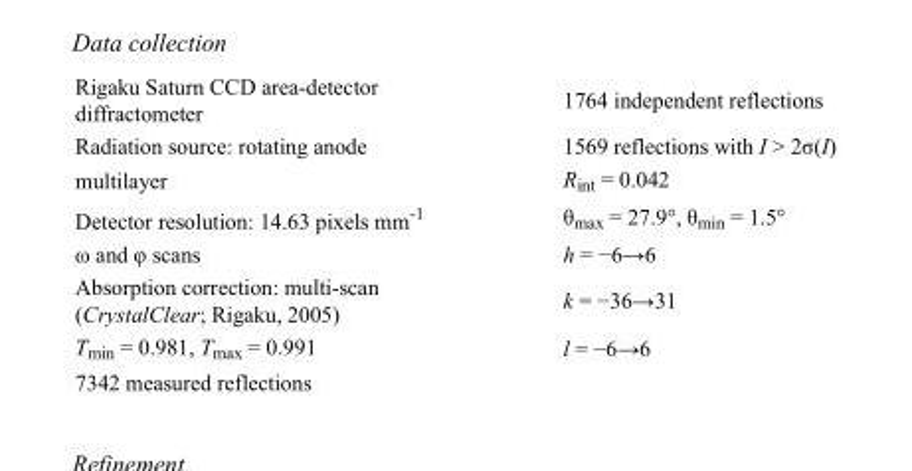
<table><tbody><tr><td>Rigaku Saturn CCD area-detector diffractometer</td><td>1764 independent reflections</td></tr><tr><td>Radiation source: rotating anode</td><td>1569 reflections with I &gt; 2σ(I)</td></tr><tr><td>multilayer</td><td>R<sub>int</sub> = 0.042</td></tr><tr><td>Detector resolution: 14.63 pixels mm<sup>-1</sup></td><td>θ<sub>max</sub> = 27.9°, θ<sub>min</sub> = 1.5°</td></tr><tr><td>ω and φ scans</td><td>h = −6→6</td></tr><tr><td>Absorption correction: multi-scan (CrystalClear; Rigaku, 2005)</td><td>k = −36→31</td></tr><tr><td>T<sub>min</sub> = 0.981, T<sub>max</sub> = 0.991</td><td>l = −6→6</td></tr><tr><td>7342 measured reflections</td><td></td></tr></tbody></table>